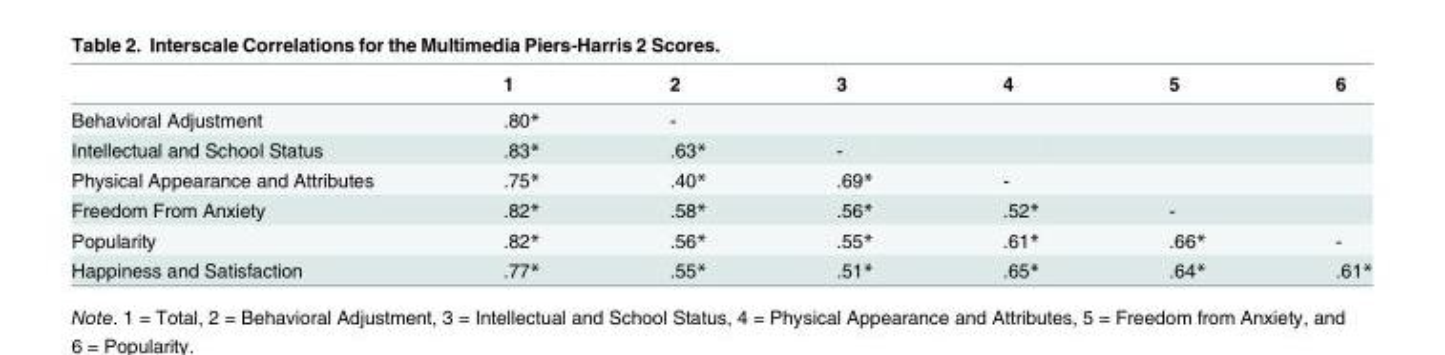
<table><thead><tr><td></td><td>1</td><td>2</td><td>3</td><td>4</td><td>5</td><td>6</td></tr></thead><tbody><tr><td>Behavioral Adjustment</td><td>.80*</td><td>-</td><td></td><td></td><td></td><td></td></tr><tr><td>Intellectual and School Status</td><td>.83*</td><td>.63*</td><td>-</td><td></td><td></td><td></td></tr><tr><td>Physical Appearance and Attributes</td><td>.75*</td><td>.40*</td><td>.69*</td><td>-</td><td></td><td></td></tr><tr><td>Freedom From Anxiety</td><td>.82*</td><td>.58*</td><td>.56*</td><td>.52*</td><td>-</td><td></td></tr><tr><td>Popularity</td><td>.82*</td><td>.56*</td><td>.55*</td><td>.61*</td><td>.66*</td><td>-</td></tr><tr><td>Happiness and Satisfaction</td><td>.77*</td><td>.55*</td><td>.51*</td><td>.65*</td><td>.64*</td><td>.61*</td></tr></tbody></table>